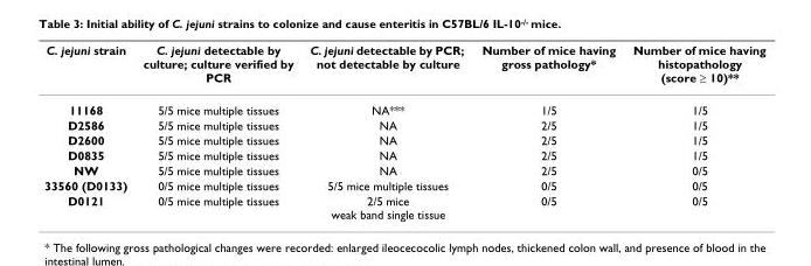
<table><thead><tr><td>C. jejuni strain</td><td>C. jejuni detectable by culture; culture verified by PCR</td><td>C. jejuni detectable by PCR; not detectable by culture</td><td>Number of mice having gross pathology*</td><td>Number of mice having histopathology (score ≥ 10)**</td></tr></thead><tbody><tr><td>11168</td><td>5/5 mice multiple tissues</td><td>NA***</td><td>1/5</td><td>1/5</td></tr><tr><td>D2586</td><td>5/5 mice multiple tissues</td><td>NA</td><td>2/5</td><td>1/5</td></tr><tr><td>D2600</td><td>5/5 mice multiple tissues</td><td>NA</td><td>2/5</td><td>1/5</td></tr><tr><td>D0835</td><td>5/5 mice multiple tissues</td><td>NA</td><td>2/5</td><td>1/5</td></tr><tr><td>NW</td><td>5/5 mice multiple tissues</td><td>NA</td><td>2/5</td><td>0/5</td></tr><tr><td>33560 (D0133)</td><td>0/5 mice multiple tissues</td><td>5/5 mice multiple tissues</td><td>0/5</td><td>0/5</td></tr><tr><td>D0121</td><td>0/5 mice multiple tissues</td><td>2/5 mice weak band single tissue</td><td>0/5</td><td>0/5</td></tr></tbody></table>